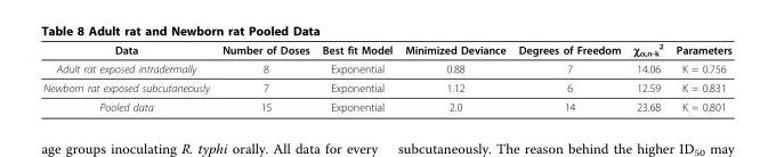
<table><thead><tr><td>Data</td><td>Number of Doses</td><td>Best fit Model</td><td>Minimized Deviance</td><td>Degrees of Freedom</td><td>χ<sub>α,n-k</sub> <sup>2</sup></td><td>Parameters</td></tr></thead><tbody><tr><td>Adult rat exposed intradermally</td><td>8</td><td>Exponential</td><td>0.88</td><td>7</td><td>14.06</td><td>K = 0.756</td></tr><tr><td>Newborn rat exposed subcutaneously</td><td>7</td><td>Exponential</td><td>1.12</td><td>6</td><td>12.59</td><td>K = 0.831</td></tr><tr><td>Pooled data</td><td>15</td><td>Exponential</td><td>2.0</td><td>14</td><td>23.68</td><td>K = 0.801</td></tr></tbody></table>